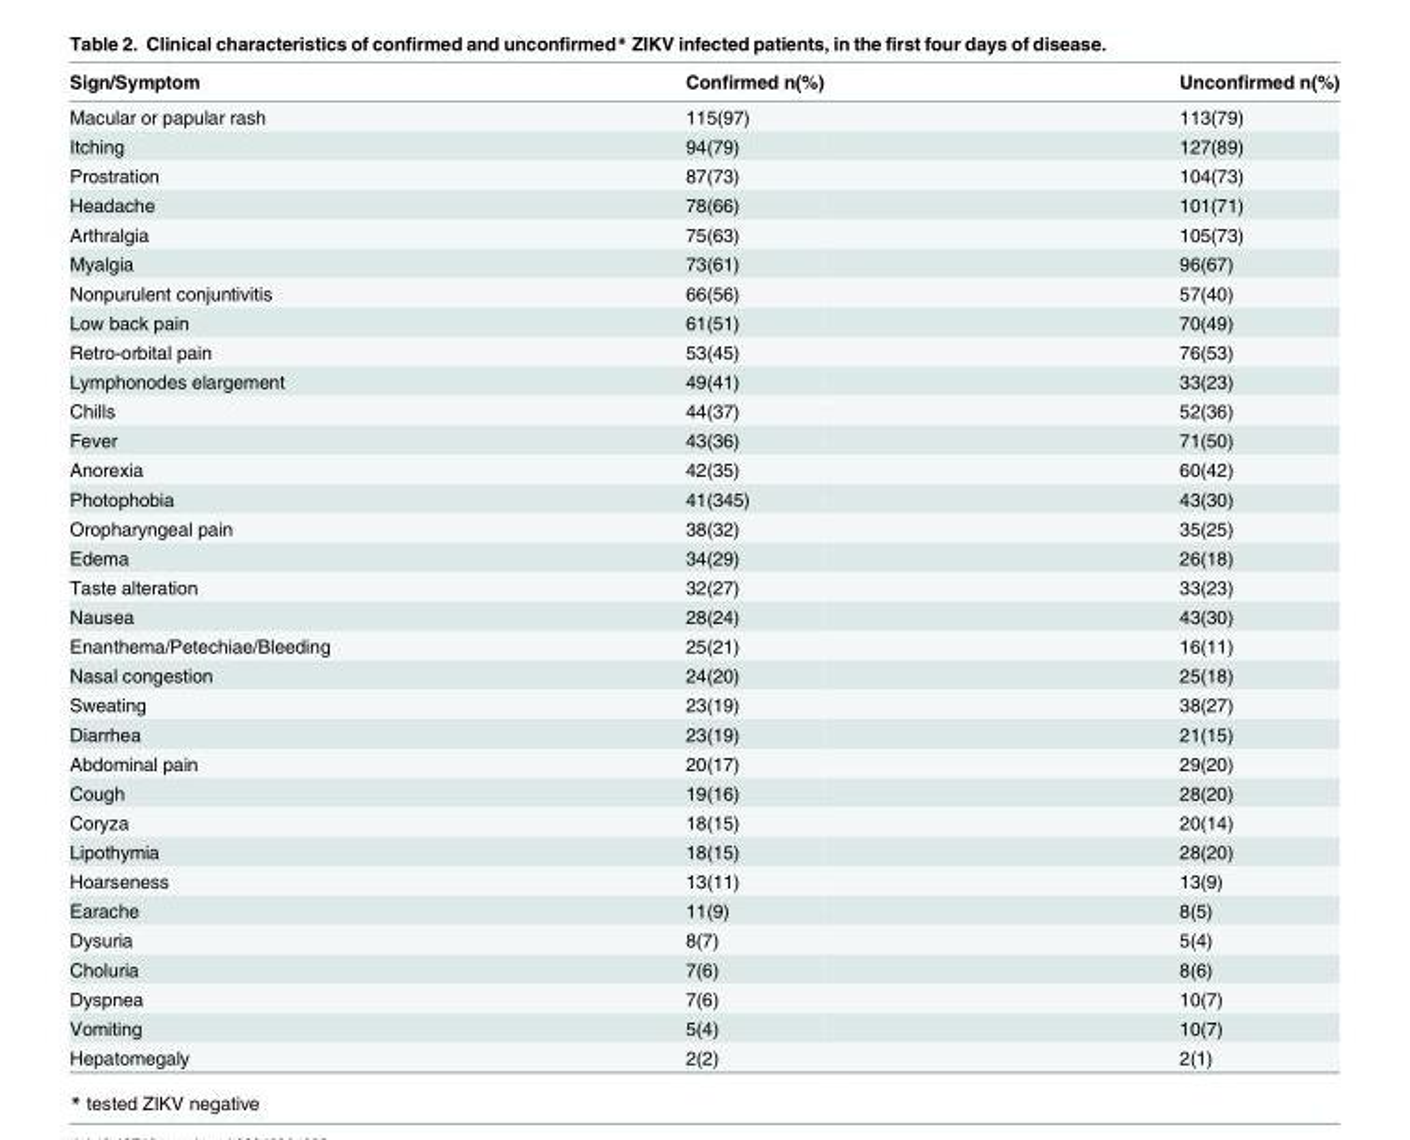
<table><thead><tr><td>Sign/Symptom</td><td>Confirmed n(%)</td><td>Unconfirmed n(%)</td></tr></thead><tbody><tr><td>Macular or papular rash</td><td>115(97)</td><td>113(79)</td></tr><tr><td>Itching</td><td>94(79)</td><td>127(89)</td></tr><tr><td>Prostration</td><td>87(73)</td><td>104(73)</td></tr><tr><td>Headache</td><td>78(66)</td><td>101(71)</td></tr><tr><td>Arthralgia</td><td>75(63)</td><td>105(73)</td></tr><tr><td>Myalgia</td><td>73(61)</td><td>96(67)</td></tr><tr><td>Nonpurulent conjuntivitis</td><td>66(56)</td><td>57(40)</td></tr><tr><td>Low back pain</td><td>61(51)</td><td>70(49)</td></tr><tr><td>Retro-orbital pain</td><td>53(45)</td><td>76(53)</td></tr><tr><td>Lymphonodes elargement</td><td>49(41)</td><td>33(23)</td></tr><tr><td>Chills</td><td>44(37)</td><td>52(36)</td></tr><tr><td>Fever</td><td>43(36)</td><td>71(50)</td></tr><tr><td>Anorexia</td><td>42(35)</td><td>60(42)</td></tr><tr><td>Photophobia</td><td>41(345)</td><td>43(30)</td></tr><tr><td>Oropharyngeal pain</td><td>38(32)</td><td>35(25)</td></tr><tr><td>Edema</td><td>34(29)</td><td>26(18)</td></tr><tr><td>Taste alteration</td><td>32(27)</td><td>33(23)</td></tr><tr><td>Nausea</td><td>28(24)</td><td>43(30)</td></tr><tr><td>Enanthema/Petechiae/Bleeding</td><td>25(21)</td><td>16(11)</td></tr><tr><td>Nasal congestion</td><td>24(20)</td><td>25(18)</td></tr><tr><td>Sweating</td><td>23(19)</td><td>38(27)</td></tr><tr><td>Diarrhea</td><td>23(19)</td><td>21(15)</td></tr><tr><td>Abdominal pain</td><td>20(17)</td><td>29(20)</td></tr><tr><td>Cough</td><td>19(16)</td><td>28(20)</td></tr><tr><td>Coryza</td><td>18(15)</td><td>20(14)</td></tr><tr><td>Lipothymia</td><td>18(15)</td><td>28(20)</td></tr><tr><td>Hoarseness</td><td>13(11)</td><td>13(9)</td></tr><tr><td>Earache</td><td>11(9)</td><td>8(5)</td></tr><tr><td>Dysuria</td><td>8(7)</td><td>5(4)</td></tr><tr><td>Choluria</td><td>7(6)</td><td>8(6)</td></tr><tr><td>Dyspnea</td><td>7(6)</td><td>10(7)</td></tr><tr><td>Vomiting</td><td>5(4)</td><td>10(7)</td></tr><tr><td>Hepatomegaly</td><td>2(2)</td><td>2(1)</td></tr></tbody></table>